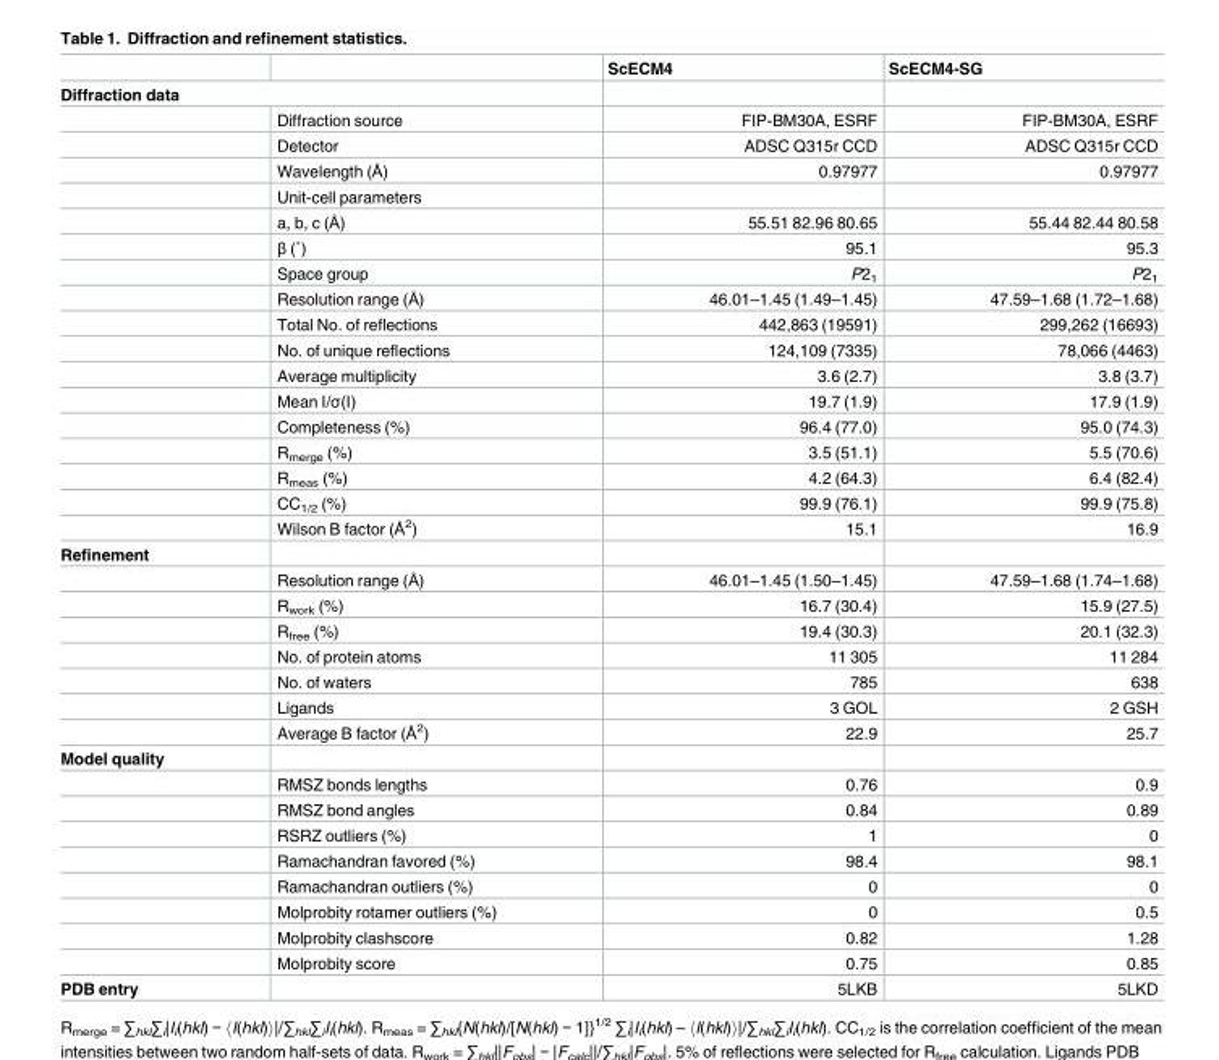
<table><thead><tr><td></td><td></td><td>ScECM4</td><td>ScECM4-SG</td></tr></thead><tbody><tr><td colspan="4">Diffraction data</td></tr><tr><td></td><td>Diffraction source</td><td>FIP-BM30A, ESRF</td><td>FIP-BM30A, ESRF</td></tr><tr><td></td><td>Detector</td><td>ADSC Q315r CCD</td><td>ADSC Q315r CCD</td></tr><tr><td></td><td>Wavelength (Å)</td><td>0.97977</td><td>0.97977</td></tr><tr><td></td><td>Unit-cell parameters</td><td></td><td></td></tr><tr><td></td><td>a, b, c (Å)</td><td>55.51 82.96 80.65</td><td>55.44 82.44 80.58</td></tr><tr><td></td><td>β (˚)</td><td>95.1</td><td>95.3</td></tr><tr><td></td><td>Space group</td><td>P2<sub>1</sub></td><td>P2<sub>1</sub></td></tr><tr><td></td><td>Resolution range (Å)</td><td>46.01–1.45 (1.49–1.45)</td><td>47.59–1.68 (1.72–1.68)</td></tr><tr><td></td><td>Total No. of reflections</td><td>442,863 (19591)</td><td>299,262 (16693)</td></tr><tr><td></td><td>No. of unique reflections</td><td>124,109 (7335)</td><td>78,066 (4463)</td></tr><tr><td></td><td>Average multiplicity</td><td>3.6 (2.7)</td><td>3.8 (3.7)</td></tr><tr><td></td><td>Mean I/σ(I)</td><td>19.7 (1.9)</td><td>17.9 (1.9)</td></tr><tr><td></td><td>Completeness (%)</td><td>96.4 (77.0)</td><td>95.0 (74.3)</td></tr><tr><td></td><td>R<sub>merge</sub> (%)</td><td>3.5 (51.1)</td><td>5.5 (70.6)</td></tr><tr><td></td><td>R<sub>meas</sub> (%)</td><td>4.2 (64.3)</td><td>6.4 (82.4)</td></tr><tr><td></td><td>CC<sub>1/2</sub> (%)</td><td>99.9 (76.1)</td><td>99.9 (75.8)</td></tr><tr><td></td><td>Wilson B factor (Å<sup>2</sup>)</td><td>15.1</td><td>16.9</td></tr><tr><td colspan="4">Refinement</td></tr><tr><td></td><td>Resolution range (Å)</td><td>46.01–1.45 (1.50–1.45)</td><td>47.59–1.68 (1.74–1.68)</td></tr><tr><td></td><td>R<sub>work</sub> (%)</td><td>16.7 (30.4)</td><td>15.9 (27.5)</td></tr><tr><td></td><td>R<sub>free</sub> (%)</td><td>19.4 (30.3)</td><td>20.1 (32.3)</td></tr><tr><td></td><td>No. of protein atoms</td><td>11 305</td><td>11 284</td></tr><tr><td></td><td>No. of waters</td><td>785</td><td>638</td></tr><tr><td></td><td>Ligands</td><td>3 GOL</td><td>2 GSH</td></tr><tr><td></td><td>Average B factor (Å<sup>2</sup>)</td><td>22.9</td><td>25.7</td></tr><tr><td colspan="4">Model quality</td></tr><tr><td></td><td>RMSZ bonds lengths</td><td>0.76</td><td>0.9</td></tr><tr><td></td><td>RMSZ bond angles</td><td>0.84</td><td>0.89</td></tr><tr><td></td><td>RSRZ outliers (%)</td><td>1</td><td>0</td></tr><tr><td></td><td>Ramachandran favored (%)</td><td>98.4</td><td>98.1</td></tr><tr><td></td><td>Ramachandran outliers (%)</td><td>0</td><td>0</td></tr><tr><td></td><td>Molprobity rotamer outliers (%)</td><td>0</td><td>0.5</td></tr><tr><td></td><td>Molprobity clashscore</td><td>0.82</td><td>1.28</td></tr><tr><td></td><td>Molprobity score</td><td>0.75</td><td>0.85</td></tr><tr><td>PDB entry</td><td></td><td>5LKB</td><td>5LKD</td></tr></tbody></table>